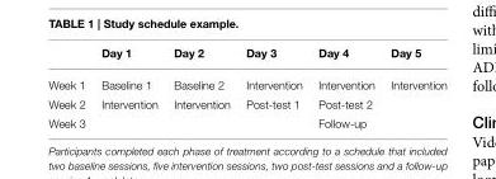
<table><thead><tr><td></td><td>Day 1</td><td>Day 2</td><td>Day 3</td><td>Day 4</td><td>Day 5</td></tr></thead><tbody><tr><td>Week 1</td><td>Baseline 1</td><td>Baseline 2</td><td>Intervention</td><td>Intervention</td><td>Intervention</td></tr><tr><td>Week 2</td><td>Intervention</td><td>Intervention</td><td>Post-test 1</td><td>Post-test 2</td><td></td></tr><tr><td>Week 3</td><td></td><td></td><td></td><td>Follow-up</td><td></td></tr></tbody></table>